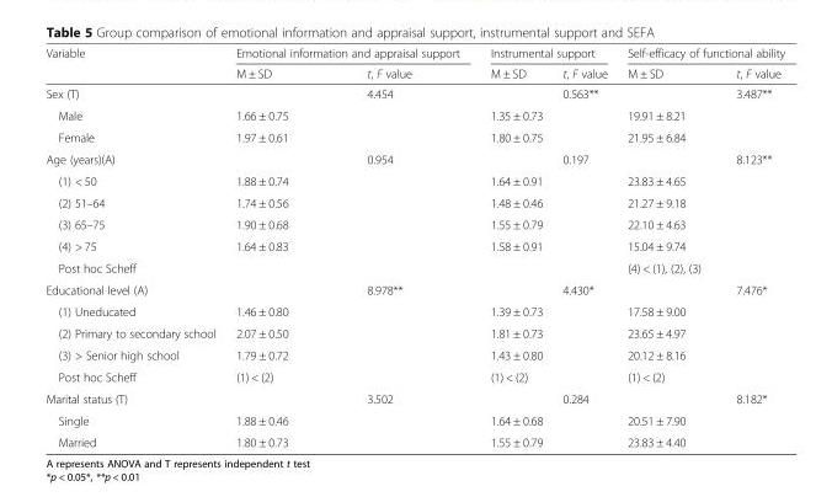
<table><thead><tr><td rowspan="2">Variable</td><td colspan="2">Emotional information and appraisal support</td><td colspan="2">Instrumental support</td><td colspan="2">Self-efficacy of functional ability</td></tr><tr><td>M ± SD</td><td>t, F value</td><td>M ± SD</td><td>t, F value</td><td>M ± SD</td><td>t, F value</td></tr></thead><tbody><tr><td>Sex (T)</td><td></td><td>4.454</td><td></td><td>0.563**</td><td></td><td>3.487**</td></tr><tr><td>Male</td><td>1.66 ± 0.75</td><td rowspan="2"></td><td>1.35 ± 0.73</td><td rowspan="2"></td><td>19.91 ± 8.21</td><td rowspan="2"></td></tr><tr><td>Female</td><td>1.97 ± 0.61</td><td>1.80 ± 0.75</td><td>21.95 ± 6.84</td></tr><tr><td>Age (years)(A)</td><td></td><td>0.954</td><td></td><td>0.197</td><td></td><td>8.123**</td></tr><tr><td>(1) &lt; 50</td><td>1.88 ± 0.74</td><td rowspan="4"></td><td>1.64 ± 0.91</td><td rowspan="4"></td><td>23.83 ± 4.65</td><td rowspan="4"></td></tr><tr><td>(2) 51–64</td><td>1.74 ± 0.56</td><td>1.48 ± 0.46</td><td>21.27 ± 9.18</td></tr><tr><td>(3) 65–75</td><td>1.90 ± 0.68</td><td>1.55 ± 0.79</td><td>22.10 ± 4.63</td></tr><tr><td>(4) &gt; 75</td><td>1.64 ± 0.83</td><td>1.58 ± 0.91</td><td>15.04 ± 9.74</td></tr><tr><td>Post hoc Scheff</td><td rowspan="2"></td><td></td><td rowspan="2"></td><td></td><td>(4) &lt; (1), (2), (3)</td><td></td></tr><tr><td>Educational level (A)</td><td>8.978**</td><td>4.430*</td><td></td><td>7.476*</td></tr><tr><td>(1) Uneducated</td><td>1.46 ± 0.80</td><td rowspan="4"></td><td>1.39 ± 0.73</td><td rowspan="4"></td><td>17.58 ± 9.00</td><td rowspan="4"></td></tr><tr><td>(2) Primary to secondary school</td><td>2.07 ± 0.50</td><td>1.81 ± 0.73</td><td>23.65 ± 4.97</td></tr><tr><td>(3) &gt; Senior high school</td><td>1.79 ± 0.72</td><td>1.43 ± 0.80</td><td>20.12 ± 8.16</td></tr><tr><td>Post hoc Scheff</td><td>(1) &lt; (2)</td><td>(1) &lt; (2)</td><td>(1) &lt; (2)</td></tr><tr><td>Marital status (T)</td><td></td><td>3.502</td><td></td><td>0.284</td><td></td><td>8.182*</td></tr><tr><td>Single</td><td>1.88 ± 0.46</td><td rowspan="2"></td><td>1.64 ± 0.68</td><td rowspan="2"></td><td>20.51 ± 7.90</td><td rowspan="2"></td></tr><tr><td>Married</td><td>1.80 ± 0.73</td><td>1.55 ± 0.79</td><td>23.83 ± 4.40</td></tr></tbody></table>